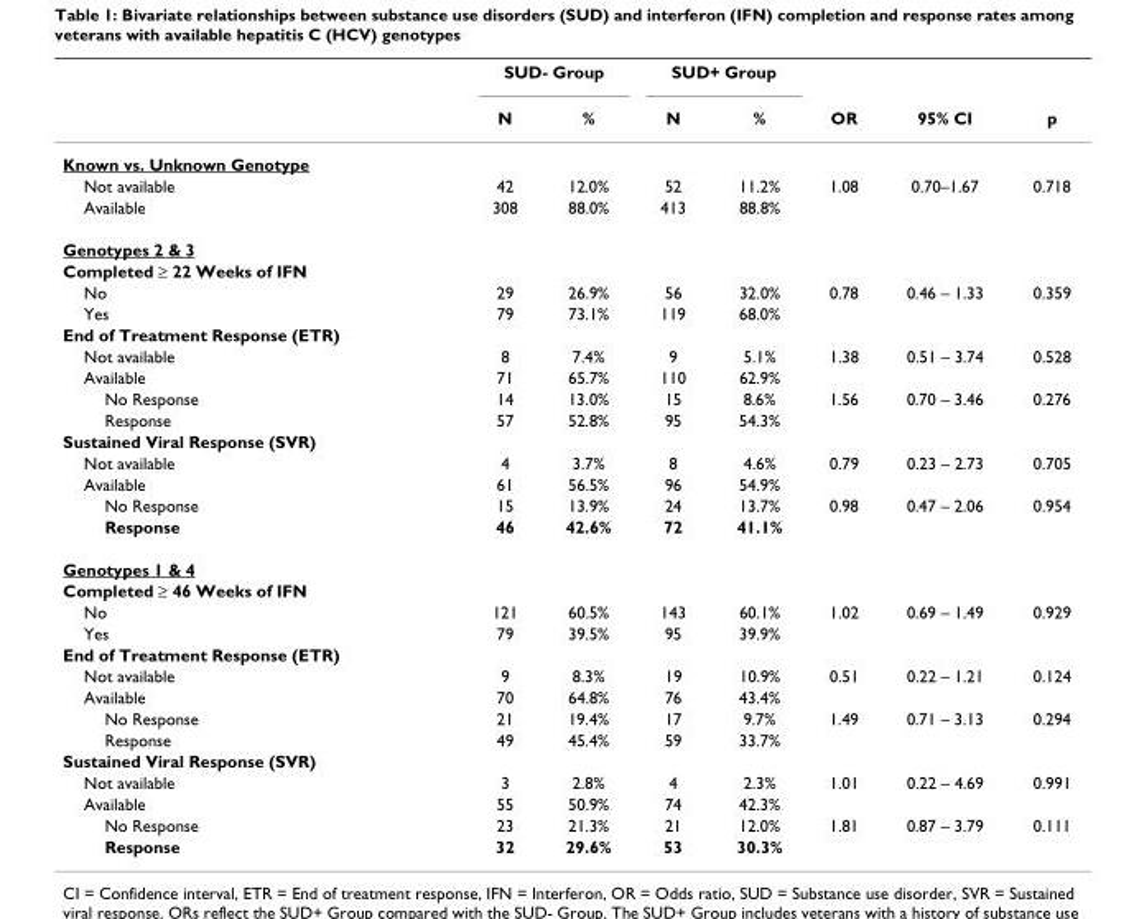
<table><thead><tr><td rowspan="2"></td><td colspan="2">SUD- Group</td><td colspan="2">SUD+ Group</td><td rowspan="2">OR</td><td rowspan="2">95% CI</td><td rowspan="2">p</td></tr><tr><td>N</td><td>%</td><td>N</td><td>%</td></tr></thead><tbody><tr><td colspan="8">Known vs. Unknown Genotype</td></tr><tr><td>Not available</td><td>42</td><td>12.0%</td><td>52</td><td>11.2%</td><td>1.08</td><td>0.70–1.67</td><td>0.718</td></tr><tr><td>Available</td><td>308</td><td>88.0%</td><td>413</td><td>88.8%</td><td></td><td></td><td></td></tr><tr><td colspan="8">Genotypes 2 &amp; 3</td></tr><tr><td colspan="8">Completed ≥ 22 Weeks of IFN</td></tr><tr><td>No</td><td>29</td><td>26.9%</td><td>56</td><td>32.0%</td><td>0.78</td><td>0.46 – 1.33</td><td>0.359</td></tr><tr><td>Yes</td><td>79</td><td>73.1%</td><td>119</td><td>68.0%</td><td></td><td></td><td></td></tr><tr><td colspan="8">End of Treatment Response (ETR)</td></tr><tr><td>Not available</td><td>8</td><td>7.4%</td><td>9</td><td>5.1%</td><td>1.38</td><td>0.51 – 3.74</td><td>0.528</td></tr><tr><td>Available</td><td>71</td><td>65.7%</td><td>110</td><td>62.9%</td><td></td><td></td><td></td></tr><tr><td>No Response</td><td>14</td><td>13.0%</td><td>15</td><td>8.6%</td><td>1.56</td><td>0.70 – 3.46</td><td>0.276</td></tr><tr><td>Response</td><td>57</td><td>52.8%</td><td>95</td><td>54.3%</td><td></td><td></td><td></td></tr><tr><td colspan="8">Sustained Viral Response (SVR)</td></tr><tr><td>Not available</td><td>4</td><td>3.7%</td><td>8</td><td>4.6%</td><td>0.79</td><td>0.23 – 2.73</td><td>0.705</td></tr><tr><td>Available</td><td>61</td><td>56.5%</td><td>96</td><td>54.9%</td><td></td><td></td><td></td></tr><tr><td>No Response</td><td>15</td><td>13.9%</td><td>24</td><td>13.7%</td><td>0.98</td><td>0.47 – 2.06</td><td>0.954</td></tr><tr><td>Response</td><td>46</td><td>42.6%</td><td>72</td><td>41.1%</td><td></td><td></td><td></td></tr><tr><td colspan="8">Genotypes 1 &amp; 4</td></tr><tr><td colspan="8">Completed ≥ 46 Weeks of IFN</td></tr><tr><td>No</td><td>121</td><td>60.5%</td><td>143</td><td>60.1%</td><td>1.02</td><td>0.69 – 1.49</td><td>0.929</td></tr><tr><td>Yes</td><td>79</td><td>39.5%</td><td>95</td><td>39.9%</td><td></td><td></td><td></td></tr><tr><td colspan="8">End of Treatment Response (ETR)</td></tr><tr><td>Not available</td><td>9</td><td>8.3%</td><td>19</td><td>10.9%</td><td>0.51</td><td>0.22 – 1.21</td><td>0.124</td></tr><tr><td>Available</td><td>70</td><td>64.8%</td><td>76</td><td>43.4%</td><td></td><td></td><td></td></tr><tr><td>No Response</td><td>21</td><td>19.4%</td><td>17</td><td>9.7%</td><td>1.49</td><td>0.71 – 3.13</td><td>0.294</td></tr><tr><td>Response</td><td>49</td><td>45.4%</td><td>59</td><td>33.7%</td><td></td><td></td><td></td></tr><tr><td colspan="8">Sustained Viral Response (SVR)</td></tr><tr><td>Not available</td><td>3</td><td>2.8%</td><td>4</td><td>2.3%</td><td>1.01</td><td>0.22 – 4.69</td><td>0.991</td></tr><tr><td>Available</td><td>55</td><td>50.9%</td><td>74</td><td>42.3%</td><td></td><td></td><td></td></tr><tr><td>No Response</td><td>23</td><td>21.3%</td><td>21</td><td>12.0%</td><td>1.81</td><td>0.87 – 3.79</td><td>0.111</td></tr><tr><td>Response</td><td>32</td><td>29.6%</td><td>53</td><td>30.3%</td><td></td><td></td><td></td></tr></tbody></table>